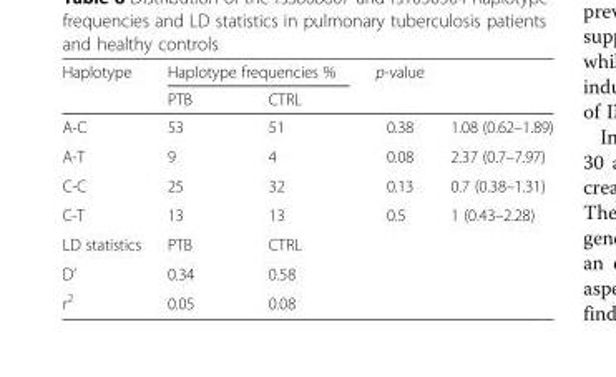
<table><thead><tr><td rowspan="2">Haplotype</td><td colspan="2">Haplotype frequencies %</td><td rowspan="2">p-value</td><td rowspan="2"></td></tr><tr><td>PTB</td><td>CTRL</td></tr></thead><tbody><tr><td>A-C</td><td>53</td><td>51</td><td>0.38</td><td>1.08 (0.62–1.89)</td></tr><tr><td>A-T</td><td>9</td><td>4</td><td>0.08</td><td>2.37 (0.7–7.97)</td></tr><tr><td>C-C</td><td>25</td><td>32</td><td>0.13</td><td>0.7 (0.38–1.31)</td></tr><tr><td>C-T</td><td>13</td><td>13</td><td>0.5</td><td>1 (0.43–2.28)</td></tr><tr><td>LD statistics</td><td>PTB</td><td>CTRL</td><td colspan="2"></td></tr><tr><td>D’</td><td>0.34</td><td>0.58</td><td rowspan="2"></td><td rowspan="2"></td></tr><tr><td>r<sup>2</sup></td><td>0.05</td><td>0.08</td></tr></tbody></table>